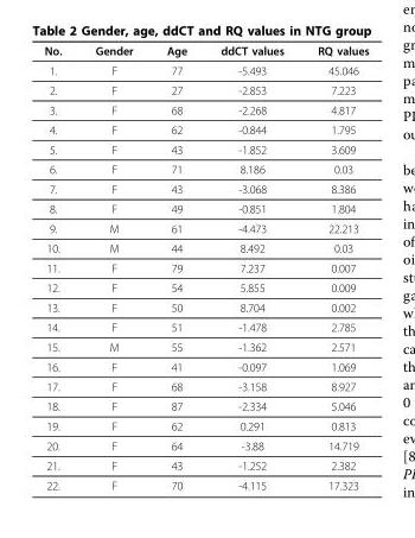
<table><thead><tr><td>No.</td><td>Gender</td><td>Age</td><td>ddCT values</td><td>RQ values</td></tr></thead><tbody><tr><td>1.</td><td>F</td><td>77</td><td>-5.493</td><td>45.046</td></tr><tr><td>2.</td><td>F</td><td>27</td><td>-2.853</td><td>7.223</td></tr><tr><td>3.</td><td>F</td><td>68</td><td>-2.268</td><td>4.817</td></tr><tr><td>4.</td><td>F</td><td>62</td><td>-0.844</td><td>1.795</td></tr><tr><td>5.</td><td>F</td><td>43</td><td>-1.852</td><td>3.609</td></tr><tr><td>6.</td><td>F</td><td>71</td><td>8.186</td><td>0.03</td></tr><tr><td>7.</td><td>F</td><td>43</td><td>-3.068</td><td>8.386</td></tr><tr><td>8.</td><td>F</td><td>49</td><td>-0.851</td><td>1.804</td></tr><tr><td>9.</td><td>M</td><td>61</td><td>-4.473</td><td>22.213</td></tr><tr><td>10.</td><td>M</td><td>44</td><td>8.492</td><td>0.03</td></tr><tr><td>11.</td><td>F</td><td>79</td><td>7.237</td><td>0.007</td></tr><tr><td>12.</td><td>F</td><td>54</td><td>5.855</td><td>0.009</td></tr><tr><td>13.</td><td>F</td><td>50</td><td>8.704</td><td>0.002</td></tr><tr><td>14.</td><td>F</td><td>51</td><td>-1.478</td><td>2.785</td></tr><tr><td>15.</td><td>M</td><td>55</td><td>-1.362</td><td>2.571</td></tr><tr><td>16.</td><td>F</td><td>41</td><td>-0.097</td><td>1.069</td></tr><tr><td>17.</td><td>F</td><td>68</td><td>-3.158</td><td>8.927</td></tr><tr><td>18.</td><td>F</td><td>87</td><td>-2.334</td><td>5.046</td></tr><tr><td>19.</td><td>F</td><td>62</td><td>0.291</td><td>0.813</td></tr><tr><td>20.</td><td>F</td><td>64</td><td>-3.88</td><td>14.719</td></tr><tr><td>21.</td><td>F</td><td>43</td><td>-1.252</td><td>2.382</td></tr><tr><td>22.</td><td>F</td><td>70</td><td>-4.115</td><td>17.323</td></tr></tbody></table>